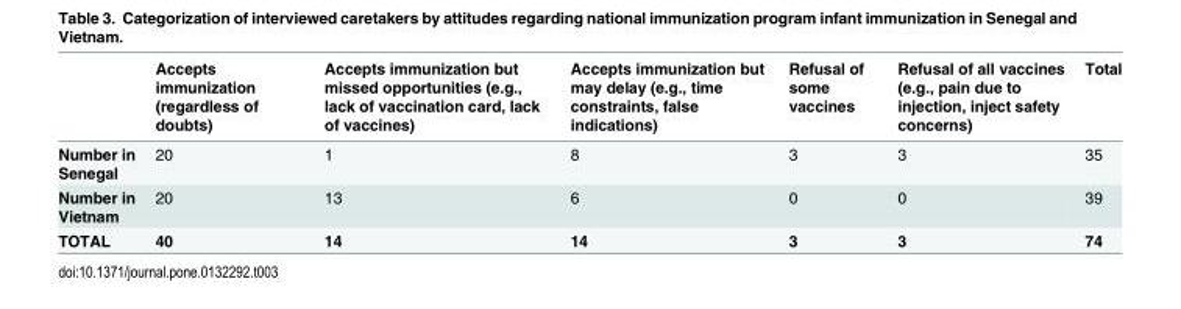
<table><thead><tr><td></td><td>Accepts immunization (regardless of doubts)</td><td>Accepts immunization but missed opportunities (e.g., lack of vaccination card, lack of vaccines)</td><td>Accepts immunization but may delay (e.g., time constraints, false indications)</td><td>Refusal of some vaccines</td><td>Refusal of all vaccines (e.g., pain due to injection, inject safety concerns)</td><td>Total</td></tr></thead><tbody><tr><td>Number in Senegal</td><td>20</td><td>1</td><td>8</td><td>3</td><td>3</td><td>35</td></tr><tr><td>Number in Vietnam</td><td>20</td><td>13</td><td>6</td><td>0</td><td>0</td><td>39</td></tr><tr><td>TOTAL</td><td>40</td><td>14</td><td>14</td><td>3</td><td>3</td><td>74</td></tr></tbody></table>